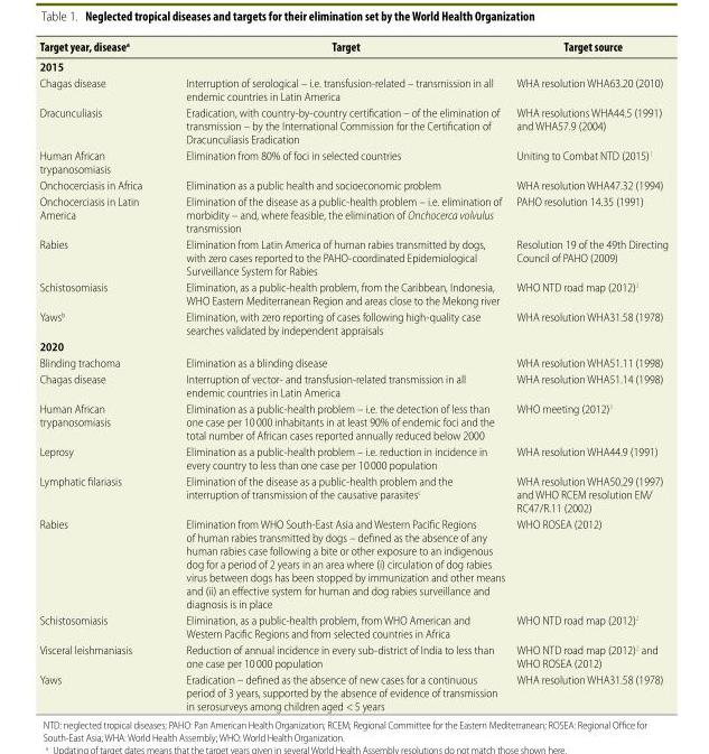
<table><thead><tr><td>Target year, disease<sup>a</sup></td><td>Target</td><td>Target source</td></tr></thead><tbody><tr><td colspan="3">2015</td></tr><tr><td>Chagas disease</td><td>Interruption of serological – i.e. transfusion-related – transmission in all endemic countries in Latin America</td><td>WHA resolution WHA63.20 (2010)</td></tr><tr><td>Dracunculiasis</td><td>Eradication, with country-by-country certification – of the elimination of transmission – by the International Commission for the Certification of Dracunculiasis Eradication</td><td>WHA resolutions WHA44.5 (1991) and WHA57.9 (2004)</td></tr><tr><td>Human African trypanosomiasis</td><td>Elimination from 80% of foci in selected countries</td><td>Uniting to Combat NTD (2015)<sup>1</sup></td></tr><tr><td>Onchocerciasis in Africa</td><td>Elimination as a public health and socioeconomic problem</td><td>WHA resolution WHA47.32 (1994)</td></tr><tr><td>Onchocerciasis in Latin America</td><td>Elimination of the disease as a public-health problem – i.e. elimination of morbidity – and, where feasible, the elimination of Onchocerca volvulus transmission</td><td>PAHO resolution 14.35 (1991)</td></tr><tr><td>Rabies</td><td>Elimination from Latin America of human rabies transmitted by dogs, with zero cases reported to the PAHO-coordinated Epidemiological Surveillance System for Rabies</td><td>Resolution 19 of the 49th Directing Council of PAHO (2009)</td></tr><tr><td>Schistosomiasis</td><td>Elimination, as a public-health problem, from the Caribbean, Indonesia, WHO Eastern Mediterranean Region and areas close to the Mekong river</td><td>WHO NTD road map (2012)<sup>2</sup></td></tr><tr><td>Yaws<sup>b</sup></td><td>Elimination, with zero reporting of cases following high-quality case searches validated by independent appraisals</td><td>WHA resolution WHA31.58 (1978)</td></tr><tr><td colspan="3">2020</td></tr><tr><td>Blinding trachoma</td><td>Elimination as a blinding disease</td><td>WHA resolution WHA51.11 (1998)</td></tr><tr><td>Chagas disease</td><td>Interruption of vector- and transfusion-related transmission in all endemic countries in Latin America</td><td>WHA resolution WHA51.14 (1998)</td></tr><tr><td>Human African trypanosomiasis</td><td>Elimination as a public-health problem – i.e. the detection of less than one case per 10 000 inhabitants in at least 90% of endemic foci and the total number of African cases reported annually reduced below 2000</td><td>WHO meeting (2012)<sup>3</sup></td></tr><tr><td>Leprosy</td><td>Elimination as a public-health problem – i.e. reduction in incidence in every country to less than one case per 10 000 population</td><td>WHA resolution WHA44.9 (1991)</td></tr><tr><td>Lymphatic filariasis</td><td>Elimination of the disease as a public-health problem and the interruption of transmission of the causative parasites<sup>c</sup></td><td>WHA resolution WHA50.29 (1997) and WHO RCEM resolution EM/ RC47/R.11 (2002)</td></tr><tr><td>Rabies</td><td>Elimination from WHO South-East Asia and Western Pacific Regions of human rabies transmitted by dogs – defined as the absence of any human rabies case following a bite or other exposure to an indigenous dog for a period of 2 years in an area where (i) circulation of dog rabies virus between dogs has been stopped by immunization and other means and (ii) an effective system for human and dog rabies surveillance and diagnosis is in place</td><td>WHO ROSEA (2012)</td></tr><tr><td>Schistosomiasis</td><td>Elimination, as a public-health problem, from WHO American and Western Pacific Regions and from selected countries in Africa</td><td>WHO NTD road map (2012)<sup>2</sup></td></tr><tr><td>Visceral leishmaniasis</td><td>Reduction of annual incidence in every sub-district of India to less than one case per 10 000 population</td><td>WHO NTD road map (2012)<sup>2</sup> and WHO ROSEA (2012)</td></tr><tr><td>Yaws</td><td>Eradication – defined as the absence of new cases for a continuous period of 3 years, supported by the absence of evidence of transmission in serosurveys among children aged &lt; 5 years</td><td>WHA resolution WHA31.58 (1978)</td></tr></tbody></table>